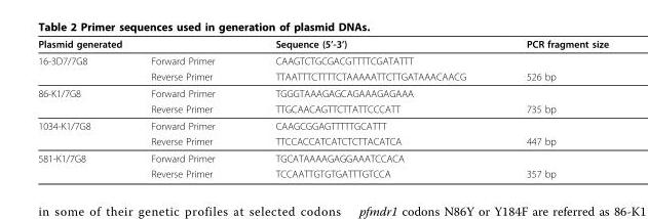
<table><thead><tr><td colspan="2">Plasmid generated</td><td rowspan="2">Sequence (5’-3’) CAAGTCTGCGACGTTTTCGATATTT</td><td rowspan="2">PCR fragment size</td></tr><tr><td>16-3D7/7G8</td><td>Forward Primer</td></tr></thead><tbody><tr><td></td><td>Reverse Primer</td><td>TTAATTTCTTTTCTAAAAATTCTTGATAAACAACG</td><td>526 bp</td></tr><tr><td rowspan="2">86-K1/7G8</td><td>Forward Primer</td><td>TGGGTAAAGAGCAGAAAGAGAAA</td><td></td></tr><tr><td>Reverse Primer</td><td>TTGCAACAGTTCTTATTCCCATT</td><td>735 bp</td></tr><tr><td rowspan="2">1034-K1/7G8</td><td>Forward Primer</td><td>CAAGCGGAGTTTTTGCATTT</td><td></td></tr><tr><td>Reverse Primer</td><td>TTCCACCATCATCTCTTACATCA</td><td>447 bp</td></tr><tr><td rowspan="2">581-K1/7G8</td><td>Forward Primer</td><td>TGCATAAAAGAGGAAATCCACA</td><td></td></tr><tr><td>Reverse Primer</td><td>TCCAATTGTGTGATTTGTCCA</td><td>357 bp</td></tr></tbody></table>